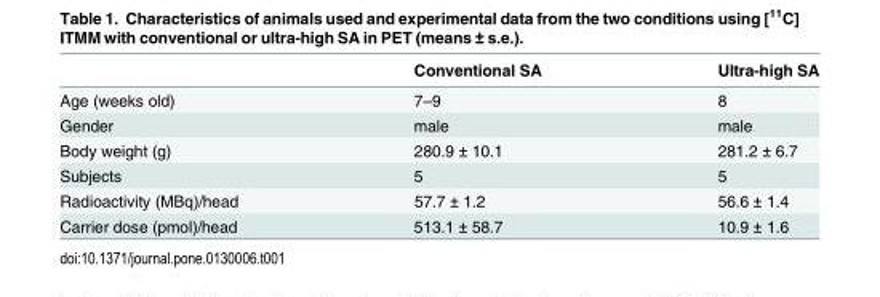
<table><thead><tr><td></td><td>Conventional SA</td><td>Ultra-high SA</td></tr></thead><tbody><tr><td>Age (weeks old)</td><td>7–9</td><td>8</td></tr><tr><td>Gender</td><td>male</td><td>male</td></tr><tr><td>Body weight (g)</td><td>280.9 ± 10.1</td><td>281.2 ± 6.7</td></tr><tr><td>Subjects</td><td>5</td><td>5</td></tr><tr><td>Radioactivity (MBq)/head</td><td>57.7 ± 1.2</td><td>56.6 ± 1.4</td></tr><tr><td>Carrier dose (pmol)/head</td><td>513.1 ± 58.7</td><td>10.9 ± 1.6</td></tr></tbody></table>